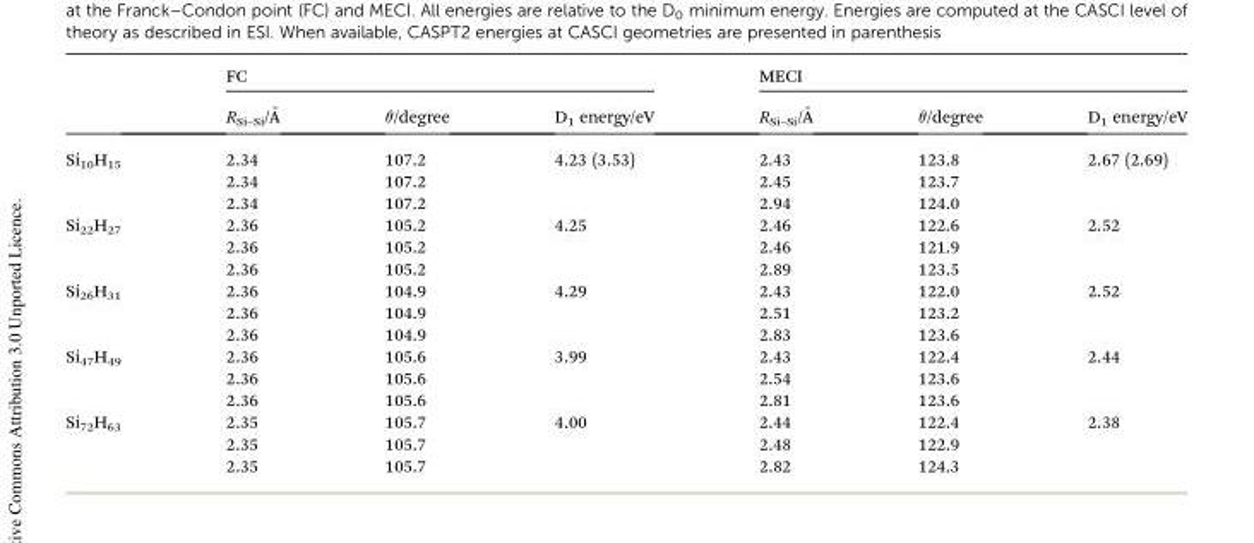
<table><thead><tr><td rowspan="2"></td><td colspan="3">FC</td><td colspan="3">MECI</td></tr><tr><td>RSi–Si/˚A</td><td>θ/degree</td><td>D<sub>1</sub> energy/eV</td><td>RSi–Si/˚A</td><td>θ/degree</td><td>D<sub>1</sub> energy/eV</td></tr></thead><tbody><tr><td rowspan="3">Si<sub>10</sub>H<sub>15</sub></td><td>2.34</td><td>107.2</td><td rowspan="3">4.23 (3.53)</td><td>2.43</td><td>123.8</td><td rowspan="3">2.67 (2.69)</td></tr><tr><td>2.34</td><td>107.2</td><td>2.45</td><td>123.7</td></tr><tr><td>2.34</td><td>107.2</td><td>2.94</td><td>124.0</td></tr><tr><td rowspan="3">Si<sub>22</sub>H<sub>27</sub></td><td>2.36</td><td>105.2</td><td rowspan="3">4.25</td><td>2.46</td><td>122.6</td><td rowspan="3">2.52</td></tr><tr><td>2.36</td><td>105.2</td><td>2.46</td><td>121.9</td></tr><tr><td>2.36</td><td>105.2</td><td>2.89</td><td>123.5</td></tr><tr><td rowspan="3">Si<sub>26</sub>H<sub>31</sub></td><td>2.36</td><td>104.9</td><td rowspan="3">4.29</td><td>2.43</td><td>122.0</td><td rowspan="3">2.52</td></tr><tr><td>2.36</td><td>104.9</td><td>2.51</td><td>123.2</td></tr><tr><td>2.36</td><td>104.9</td><td>2.83</td><td>123.6</td></tr><tr><td rowspan="3">Si<sub>47</sub>H<sub>49</sub></td><td>2.36</td><td>105.6</td><td rowspan="3">3.99</td><td>2.43</td><td>122.4</td><td rowspan="3">2.44</td></tr><tr><td>2.36</td><td>105.6</td><td>2.54</td><td>123.6</td></tr><tr><td>2.36</td><td>105.6</td><td>2.81</td><td>123.6</td></tr><tr><td rowspan="3">Si<sub>72</sub>H<sub>63</sub></td><td>2.35</td><td>105.7</td><td rowspan="3">4.00</td><td>2.44</td><td>122.4</td><td rowspan="3">2.38</td></tr><tr><td>2.35</td><td>105.7</td><td>2.48</td><td>122.9</td></tr><tr><td>2.35</td><td>105.7</td><td>2.82</td><td>124.3</td></tr></tbody></table>